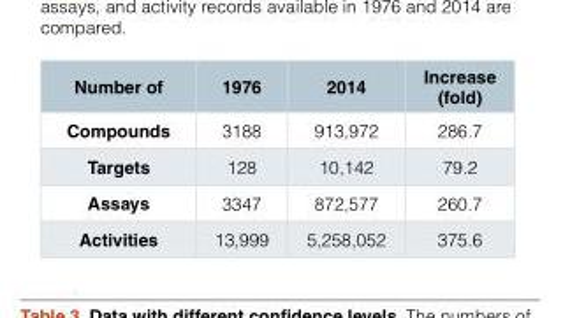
<table><thead><tr><td>Number of</td><td>1976</td><td>2014</td><td>Increase (fold)</td></tr></thead><tbody><tr><td>Compounds</td><td>3188</td><td>913,972</td><td>286.7</td></tr><tr><td>Targets</td><td>128</td><td>10,142</td><td>79.2</td></tr><tr><td>Assays</td><td>3347</td><td>872,577</td><td>260.7</td></tr><tr><td>Activities</td><td>13,999</td><td>5,258,052</td><td>375.6</td></tr></tbody></table>